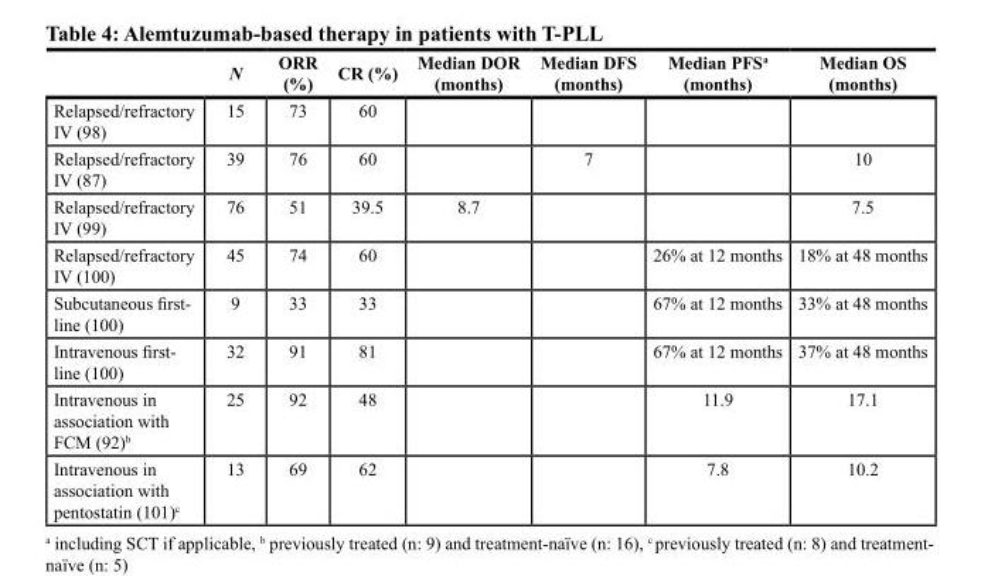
<table><thead><tr><td></td><td>N</td><td>ORR (%)</td><td>CR (%)</td><td>Median DOR (months)</td><td>Median DFS (months)</td><td>Median PFS<sup>a</sup> (months)</td><td>Median OS (months)</td></tr></thead><tbody><tr><td>Relapsed/refractory IV (98)</td><td>15</td><td>73</td><td>60</td><td></td><td></td><td></td><td></td></tr><tr><td>Relapsed/refractory IV (87)</td><td>39</td><td>76</td><td>60</td><td></td><td>7</td><td></td><td>10</td></tr><tr><td>Relapsed/refractory IV (99)</td><td>76</td><td>51</td><td>39.5</td><td>8.7</td><td></td><td></td><td>7.5</td></tr><tr><td>Relapsed/refractory IV (100)</td><td>45</td><td>74</td><td>60</td><td></td><td></td><td>26% at 12 months</td><td>18% at 48 months</td></tr><tr><td>Subcutaneous first- line (100)</td><td>9</td><td>33</td><td>33</td><td></td><td></td><td>67% at 12 months</td><td>33% at 48 months</td></tr><tr><td>Intravenous first- line (100)</td><td>32</td><td>91</td><td>81</td><td></td><td></td><td>67% at 12 months</td><td>37% at 48 months</td></tr><tr><td>Intravenous in association with FCM (92)<sup>b</sup></td><td>25</td><td>92</td><td>48</td><td></td><td></td><td>11.9</td><td>17.1</td></tr><tr><td>Intravenous in association with pentostatin (101)<sup>c</sup></td><td>13</td><td>69</td><td>62</td><td></td><td></td><td>7.8</td><td>10.2</td></tr></tbody></table>